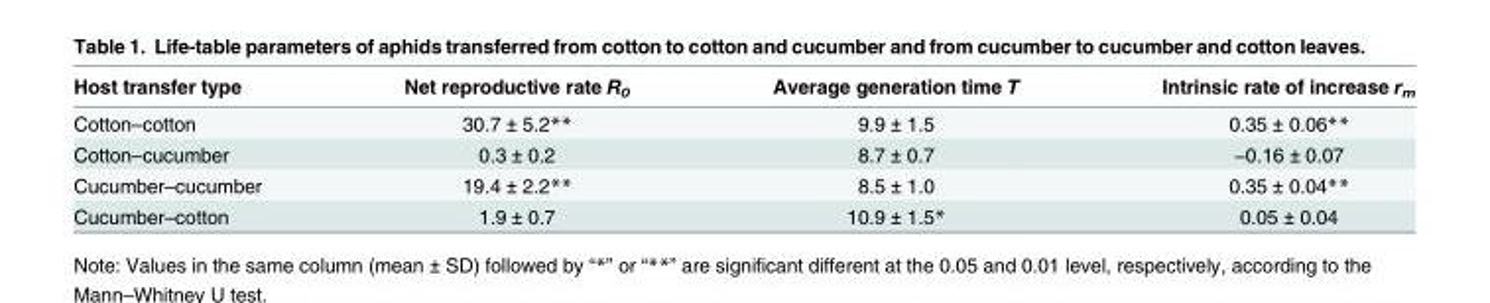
<table><thead><tr><td>Host transfer type</td><td>Net reproductive rate R<sub>0</sub></td><td>Average generation time T</td><td>Intrinsic rate of increase r<sub>m</sub></td></tr></thead><tbody><tr><td>Cotton–cotton</td><td>30.7 ± 5.2**</td><td>9.9 ± 1.5</td><td>0.35 ± 0.06**</td></tr><tr><td>Cotton–cucumber</td><td>0.3 ± 0.2</td><td>8.7 ± 0.7</td><td>−0.16 ± 0.07</td></tr><tr><td>Cucumber–cucumber</td><td>19.4 ± 2.2**</td><td>8.5 ± 1.0</td><td>0.35 ± 0.04**</td></tr><tr><td>Cucumber–cotton</td><td>1.9 ± 0.7</td><td>10.9 ± 1.5*</td><td>0.05 ± 0.04</td></tr></tbody></table>